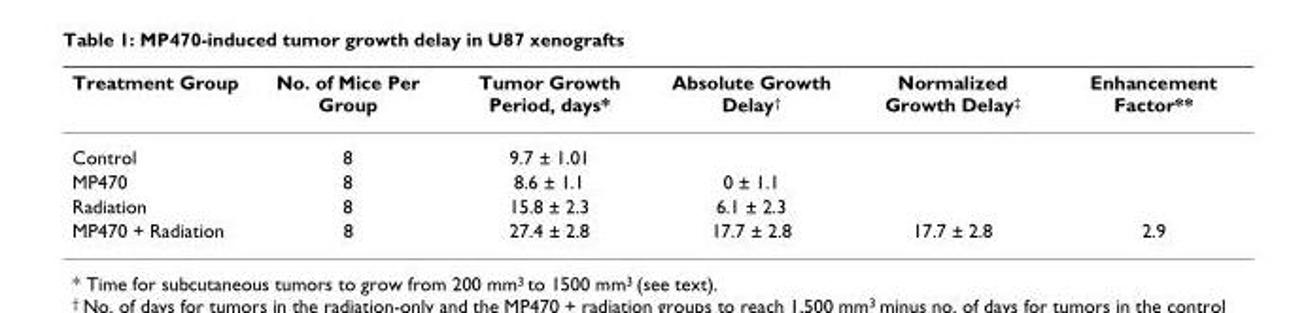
<table><thead><tr><td>Treatment Group</td><td>No. of Mice Per Group</td><td>Tumor Growth Period, days*</td><td>Absolute Growth Delay<sup>†</sup></td><td>Normalized Growth Delay<sup>‡</sup></td><td>Enhancement Factor**</td></tr></thead><tbody><tr><td>Control</td><td>8</td><td>9.7 ± 1.01</td><td></td><td></td><td></td></tr><tr><td>MP470</td><td>8</td><td>8.6 ± 1.1</td><td>0 ± 1.1</td><td></td><td></td></tr><tr><td>Radiation</td><td>8</td><td>15.8 ± 2.3</td><td>6.1 ± 2.3</td><td></td><td></td></tr><tr><td>MP470 + Radiation</td><td>8</td><td>27.4 ± 2.8</td><td>17.7 ± 2.8</td><td>17.7 ± 2.8</td><td>2.9</td></tr></tbody></table>